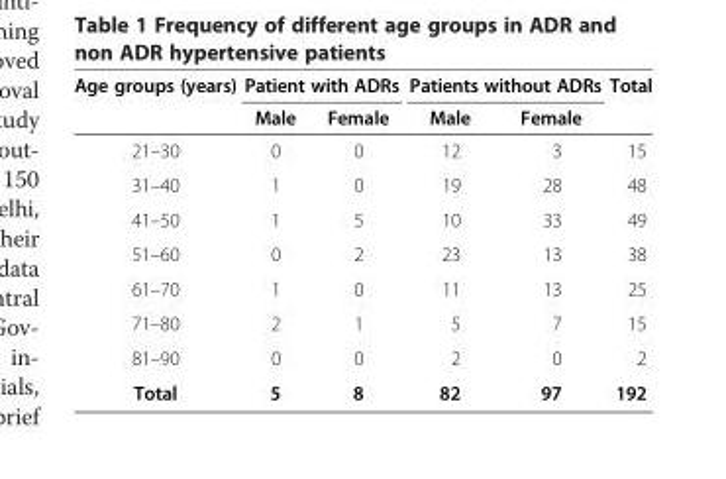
<table><thead><tr><td rowspan="2">Age groups (years)</td><td colspan="2">Patient with ADRs</td><td colspan="2">Patients without ADRs</td><td rowspan="2">Total</td></tr><tr><td>Male</td><td>Female</td><td>Male</td><td>Female</td></tr></thead><tbody><tr><td>21–30</td><td>0</td><td>0</td><td>12</td><td>3</td><td>15</td></tr><tr><td>31–40</td><td>1</td><td>0</td><td>19</td><td>28</td><td>48</td></tr><tr><td>41–50</td><td>1</td><td>5</td><td>10</td><td>33</td><td>49</td></tr><tr><td>51–60</td><td>0</td><td>2</td><td>23</td><td>13</td><td>38</td></tr><tr><td>61–70</td><td>1</td><td>0</td><td>11</td><td>13</td><td>25</td></tr><tr><td>71–80</td><td>2</td><td>1</td><td>5</td><td>7</td><td>15</td></tr><tr><td>81–90</td><td>0</td><td>0</td><td>2</td><td>0</td><td>2</td></tr><tr><td>Total</td><td>5</td><td>8</td><td>82</td><td>97</td><td>192</td></tr></tbody></table>